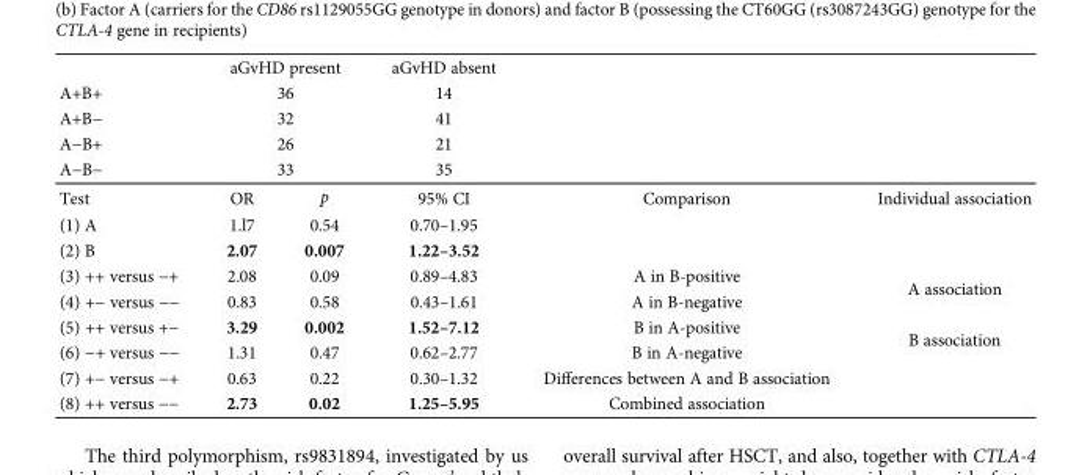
<table><thead><tr><td></td><td colspan="2">aGvHD present</td><td>aGvHD absent</td><td></td><td></td></tr></thead><tbody><tr><td>A+B+</td><td colspan="2">36</td><td>14</td><td></td><td></td></tr><tr><td>A+B−</td><td colspan="2">32</td><td>41</td><td></td><td></td></tr><tr><td>A−B+</td><td colspan="2">26</td><td>21</td><td></td><td></td></tr><tr><td>A−B−</td><td colspan="2">33</td><td>35</td><td></td><td></td></tr><tr><td>Test</td><td>OR</td><td>p</td><td>95% CI</td><td>Comparison</td><td>Individual association</td></tr><tr><td>(1) A</td><td>1.l7</td><td>0.54</td><td>0.70–1.95</td><td></td><td></td></tr><tr><td>(2) B</td><td>2.07</td><td>0.007</td><td>1.22–3.52</td><td></td><td></td></tr><tr><td>(3) ++ versus −+</td><td>2.08</td><td>0.09</td><td>0.89–4.83</td><td>A in B-positive</td><td rowspan="2">A association</td></tr><tr><td>(4) +− versus −−</td><td>0.83</td><td>0.58</td><td>0.43–1.61</td><td>A in B-negative</td></tr><tr><td>(5) ++ versus +−</td><td>3.29</td><td>0.002</td><td>1.52–7.12</td><td>B in A-positive</td><td rowspan="2">B association</td></tr><tr><td>(6) −+ versus −−</td><td>1.31</td><td>0.47</td><td>0.62–2.77</td><td>B in A-negative</td></tr><tr><td>(7) +− versus −+</td><td>0.63</td><td>0.22</td><td>0.30–1.32</td><td>Differences between A and B association</td><td></td></tr><tr><td>(8) ++ versus −−</td><td>2.73</td><td>0.02</td><td>1.25–5.95</td><td>Combined association</td><td></td></tr></tbody></table>